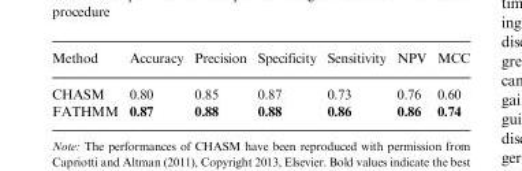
<table><thead><tr><td>Method</td><td>Accuracy</td><td>Precision</td><td>Specificity</td><td>Sensitivity</td><td>NPV</td><td>MCC</td></tr></thead><tbody><tr><td>CHASM</td><td>0.80</td><td>0.85</td><td>0.87</td><td>0.73</td><td>0.76</td><td>0.60</td></tr><tr><td>FATHMM</td><td>0.87</td><td>0.88</td><td>0.88</td><td>0.86</td><td>0.86</td><td>0.74</td></tr></tbody></table>